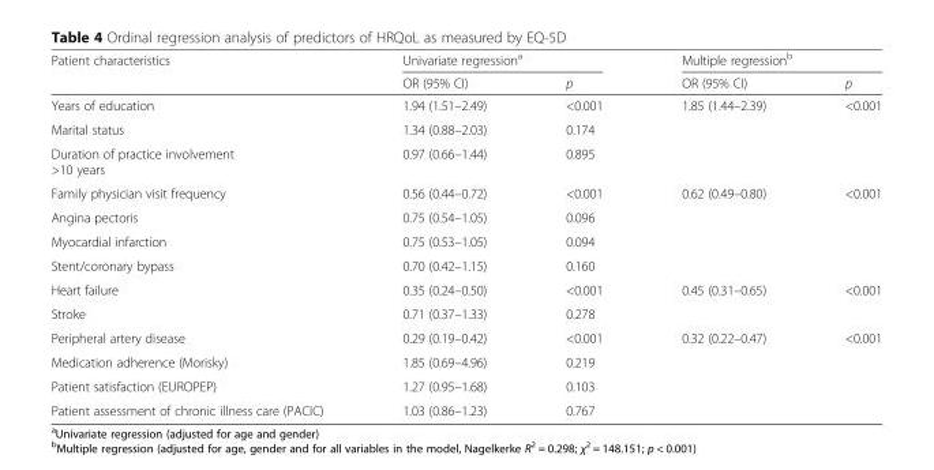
<table><thead><tr><td rowspan="2">Patient characteristics</td><td colspan="2">Univariate regression<sup>a</sup></td><td colspan="2">Multiple regression<sup>b</sup></td></tr><tr><td>OR (95% CI)</td><td>p</td><td>OR (95% CI)</td><td>p</td></tr></thead><tbody><tr><td>Years of education</td><td>1.94 (1.51–2.49)</td><td>&lt;0.001</td><td>1.85 (1.44–2.39)</td><td>&lt;0.001</td></tr><tr><td>Marital status</td><td>1.34 (0.88–2.03)</td><td>0.174</td><td></td><td></td></tr><tr><td>Duration of practice involvement &gt;10 years</td><td>0.97 (0.66–1.44)</td><td>0.895</td><td></td><td></td></tr><tr><td>Family physician visit frequency</td><td>0.56 (0.44–0.72)</td><td>&lt;0.001</td><td>0.62 (0.49–0.80)</td><td>&lt;0.001</td></tr><tr><td>Angina pectoris</td><td>0.75 (0.54–1.05)</td><td>0.096</td><td></td><td></td></tr><tr><td>Myocardial infarction</td><td>0.75 (0.53–1.05)</td><td>0.094</td><td></td><td></td></tr><tr><td>Stent/coronary bypass</td><td>0.70 (0.42–1.15)</td><td>0.160</td><td></td><td></td></tr><tr><td>Heart failure</td><td>0.35 (0.24–0.50)</td><td>&lt;0.001</td><td>0.45 (0.31–0.65)</td><td>&lt;0.001</td></tr><tr><td>Stroke</td><td>0.71 (0.37–1.33)</td><td>0.278</td><td></td><td></td></tr><tr><td>Peripheral artery disease</td><td>0.29 (0.19–0.42)</td><td>&lt;0.001</td><td>0.32 (0.22–0.47)</td><td>&lt;0.001</td></tr><tr><td>Medication adherence (Morisky)</td><td>1.85 (0.69–4.96)</td><td>0.219</td><td></td><td></td></tr><tr><td>Patient satisfaction (EUROPEP)</td><td>1.27 (0.95–1.68)</td><td>0.103</td><td></td><td></td></tr><tr><td>Patient assessment of chronic illness care (PACIC)</td><td>1.03 (0.86–1.23)</td><td>0.767</td><td></td><td></td></tr></tbody></table>